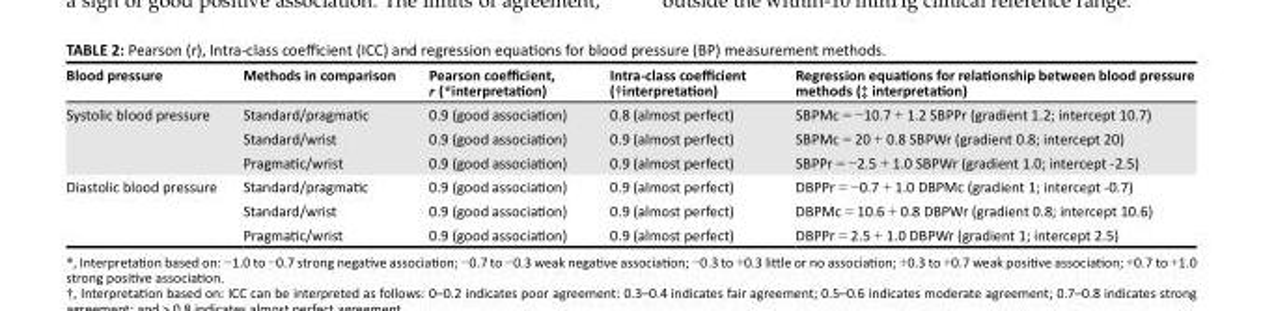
<table><thead><tr><td>Blood pressure</td><td>Methods in comparison</td><td>Pearson coefficient, r (*interpretation)</td><td>Intra-class coefficient (†interpretation)</td><td>Regression equations for relationship between blood pressure methods (‡ interpretation)</td></tr></thead><tbody><tr><td rowspan="3">Systolic blood pressure</td><td>Standard/pragmatic</td><td>0.9 (good association)</td><td>0.8 (almost perfect)</td><td>SBPMc = −10.7 + 1.2 SBPPr (gradient 1.2; intercept 10.7)</td></tr><tr><td>Standard/wrist</td><td>0.9 (good association)</td><td>0.9 (almost perfect)</td><td>SBPMc = 20 + 0.8 SBPWr (gradient 0.8; intercept 20)</td></tr><tr><td>Pragmatic/wrist</td><td>0.9 (good association)</td><td>0.9 (almost perfect)</td><td>SBPPr = −2.5 + 1.0 SBPWr (gradient 1.0; intercept -2.5)</td></tr><tr><td rowspan="3">Diastolic blood pressure</td><td>Standard/pragmatic</td><td>0.9 (good association)</td><td>0.9 (almost perfect)</td><td>DBPPr = −0.7 + 1.0 DBPMc (gradient 1; intercept -0.7)</td></tr><tr><td>Standard/wrist</td><td>0.9 (good association)</td><td>0.9 (almost perfect)</td><td>DBPMc = 10.6 + 0.8 DBPWr (gradient 0.8; intercept 10.6)</td></tr><tr><td>Pragmatic/wrist</td><td>0.9 (good association)</td><td>0.9 (almost perfect)</td><td>DBPPr = 2.5 + 1.0 DBPWr (gradient 1; intercept 2.5)</td></tr></tbody></table>